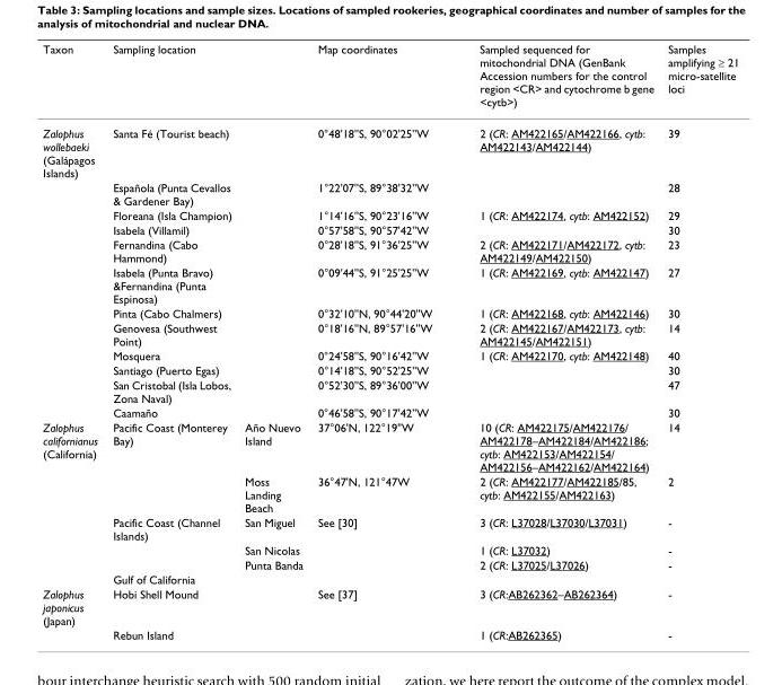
<table><thead><tr><td>Taxon</td><td>Sampling location</td><td></td><td>Map coordinates</td><td>Sampled sequenced for mitochondrial DNA (GenBank Accession numbers for the control region &lt;CR&gt; and cytochrome b gene &lt;cytb&gt;)</td><td>Samples amplifying ≥ 21 micro-satellite loci</td></tr></thead><tbody><tr><td rowspan="12">Zalophus wollebaeki (Galápagos Islands)</td><td>Santa Fé (Tourist beach)</td><td></td><td>0°48&#x27;18&#x27;&#x27;S, 90°02&#x27;25&#x27;&#x27;W</td><td>2 (CR: AM422165/AM422166, cytb: AM422143/AM422144)</td><td>39</td></tr><tr><td>Española (Punta Cevallos &amp; Gardener Bay)</td><td></td><td>1°22&#x27;07&#x27;&#x27;S, 89°38&#x27;32&#x27;&#x27;W</td><td></td><td>28</td></tr><tr><td>Floreana (Isla Champion)</td><td></td><td>1°14&#x27;16&#x27;&#x27;S, 90°23&#x27;16&#x27;&#x27;W</td><td>1 (CR: AM422174, cytb: AM422152)</td><td>29</td></tr><tr><td>Isabela (Villamil)</td><td></td><td>0°57&#x27;58&#x27;&#x27;S, 90°57&#x27;42&#x27;&#x27;W</td><td></td><td>30</td></tr><tr><td>Fernandina (Cabo Hammond)</td><td></td><td>0°28&#x27;18&#x27;&#x27;S, 91°36&#x27;25&#x27;&#x27;W</td><td>2 (CR: AM422171/AM422172, cytb: AM422149/AM422150)</td><td>23</td></tr><tr><td>Isabela (Punta Bravo) &amp;Fernandina (Punta Espinosa)</td><td></td><td>0°09&#x27;44&#x27;&#x27;S, 91°25&#x27;25&#x27;&#x27;W</td><td>1 (CR: AM422169, cytb: AM422147)</td><td>27</td></tr><tr><td>Pinta (Cabo Chalmers)</td><td></td><td>0°32&#x27;10&#x27;&#x27;N, 90°44&#x27;20&#x27;&#x27;W</td><td>1 (CR: AM422168, cytb: AM422146)</td><td>30</td></tr><tr><td>Genovesa (Southwest Point)</td><td></td><td>0°18&#x27;16&#x27;&#x27;N, 89°57&#x27;16&#x27;&#x27;W</td><td>2 (CR: AM422167/AM422173, cytb: AM422145/AM422151)</td><td>14</td></tr><tr><td>Mosquera</td><td></td><td>0°24&#x27;58&#x27;&#x27;S, 90°16&#x27;42&#x27;&#x27;W</td><td>1 (CR: AM422170, cytb: AM422148)</td><td>40</td></tr><tr><td>Santiago (Puerto Egas)</td><td></td><td>0°14&#x27;18&#x27;&#x27;S, 90°52&#x27;25&#x27;&#x27;W</td><td></td><td>30</td></tr><tr><td>San Cristobal (Isla Lobos, Zona Naval)</td><td></td><td>0°52&#x27;30&#x27;&#x27;S, 89°36&#x27;00&#x27;&#x27;W</td><td></td><td>47</td></tr><tr><td>Caamaño</td><td></td><td>0°46&#x27;58&#x27;&#x27;S, 90°17&#x27;42&#x27;&#x27;W</td><td></td><td>30</td></tr><tr><td rowspan="6">Zalophus californianus (California)</td><td>Pacific Coast (Monterey Bay)</td><td>Año Nuevo Island</td><td>37°06&#x27;N, 122°19&quot;W</td><td>10 (CR: AM422175/AM422176/ AM422178–AM422184/AM422186; cytb: AM422153/AM422154/ AM422156–AM422162/AM422164)</td><td>14</td></tr><tr><td></td><td>Moss Landing Beach</td><td>36°47&#x27;N, 121°47W</td><td>2 (CR: AM422177/AM422185/85, cytb: AM422155/AM422163)</td><td>2</td></tr><tr><td>Pacific Coast (Channel Islands)</td><td>San Miguel</td><td>See [30]</td><td>3 (CR: L37028/L37030/L37031)</td><td>-</td></tr><tr><td></td><td>San Nicolas</td><td></td><td>1 (CR: L37032)</td><td>-</td></tr><tr><td></td><td>Punta Banda</td><td></td><td>2 (CR: L37025/L37026)</td><td>-</td></tr><tr><td>Gulf of California</td><td></td><td></td><td></td><td></td></tr><tr><td rowspan="2">Zalophus japonicus (Japan)</td><td>Hobi Shell Mound</td><td></td><td>See [37]</td><td>3 (CR:AB262362–AB262364)</td><td>-</td></tr><tr><td>Rebun Island</td><td></td><td></td><td>1 (CR:AB262365)</td><td>-</td></tr></tbody></table>